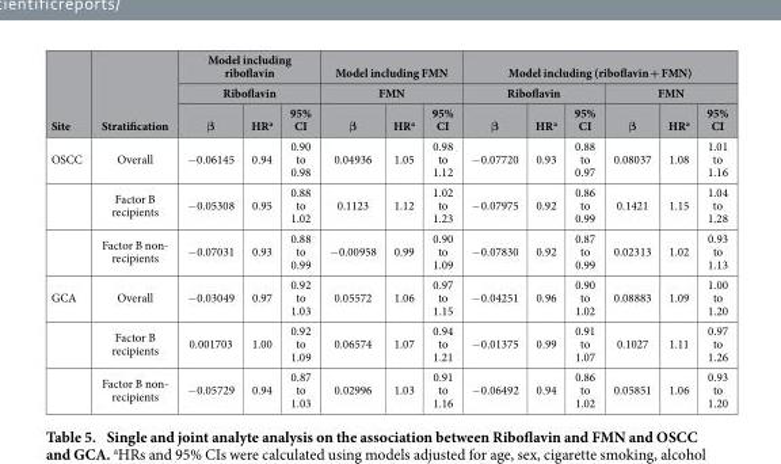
<table><thead><tr><td rowspan="3">Site</td><td rowspan="3">Stratification</td><td rowspan="2" colspan="3">Model including riboflavin Riboflavin</td><td rowspan="2" colspan="3">Model including FMN FMN</td><td colspan="6">Model including (riboflavin + FMN)</td></tr><tr><td colspan="3">Riboflavin</td><td colspan="3">FMN</td></tr><tr><td>β</td><td>HR<sup>a</sup></td><td>95% CI</td><td>β</td><td>HR<sup>a</sup></td><td>95% CI</td><td>β</td><td>HR<sup>a</sup></td><td>95% CI</td><td>β</td><td>HR<sup>a</sup></td><td>95% CI</td></tr></thead><tbody><tr><td rowspan="3">OSCC</td><td>Overall</td><td>− 0.06145</td><td>0.94</td><td>0.90 to 0.98</td><td>0.04936</td><td>1.05</td><td>0.98 to 1.12</td><td>− 0.07720</td><td>0.93</td><td>0.88 to 0.97</td><td>0.08037</td><td>1.08</td><td>1.01 to 1.16</td></tr><tr><td>Factor B recipients</td><td>− 0.05308</td><td>0.95</td><td>0.88 to 1.02</td><td>0.1123</td><td>1.12</td><td>1.02 to 1.23</td><td>− 0.07975</td><td>0.92</td><td>0.86 to 0.99</td><td>0.1421</td><td>1.15</td><td>1.04 to 1.28</td></tr><tr><td>Factor B non- recipients</td><td>− 0.07031</td><td>0.93</td><td>0.88 to 0.99</td><td>− 0.00958</td><td>0.99</td><td>0.90 to 1.09</td><td>− 0.07830</td><td>0.92</td><td>0.87 to 0.99</td><td>0.02313</td><td>1.02</td><td>0.93 to 1.13</td></tr><tr><td rowspan="3">GCA</td><td>Overall</td><td>− 0.03049</td><td>0.97</td><td>0.92 to 1.03</td><td>0.05572</td><td>1.06</td><td>0.97 to 1.15</td><td>− 0.04251</td><td>0.96</td><td>0.90 to 1.02</td><td>0.08883</td><td>1.09</td><td>1.00 to 1.20</td></tr><tr><td>Factor B recipients</td><td>0.001703</td><td>1.00</td><td>0.92 to 1.09</td><td>0.06574</td><td>1.07</td><td>0.94 to 1.21</td><td>− 0.01375</td><td>0.99</td><td>0.91 to 1.07</td><td>0.1027</td><td>1.11</td><td>0.97 to 1.26</td></tr><tr><td>Factor B non- recipients</td><td>− 0.05729</td><td>0.94</td><td>0.87 to 1.03</td><td>0.02996</td><td>1.03</td><td>0.91 to 1.16</td><td>− 0.06492</td><td>0.94</td><td>0.86 to 1.02</td><td>0.05851</td><td>1.06</td><td>0.93 to 1.20</td></tr></tbody></table>